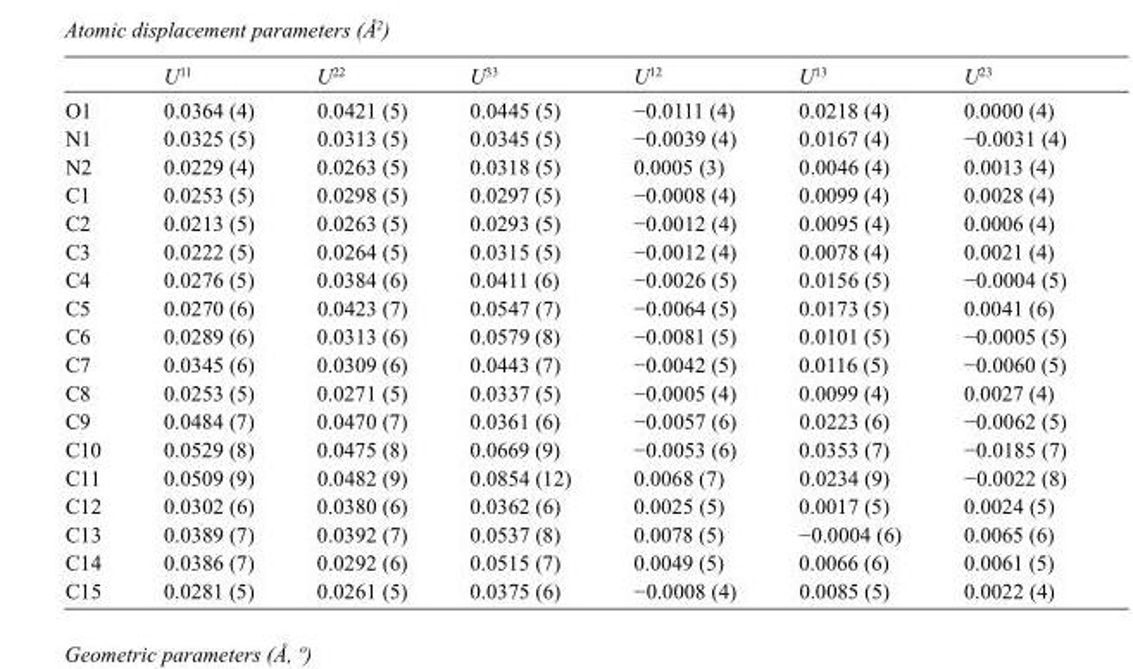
<table><thead><tr><td></td><td>U<sup>11</sup></td><td>U<sup>22</sup></td><td>U<sup>33</sup></td><td>U<sup>12</sup></td><td>U<sup>13</sup></td><td>U<sup>23</sup></td></tr></thead><tbody><tr><td>O1</td><td>0.0364 (4)</td><td>0.0421 (5)</td><td>0.0445 (5)</td><td>−0.0111 (4)</td><td>0.0218 (4)</td><td>0.0000 (4)</td></tr><tr><td>N1</td><td>0.0325 (5)</td><td>0.0313 (5)</td><td>0.0345 (5)</td><td>−0.0039 (4)</td><td>0.0167 (4)</td><td>−0.0031 (4)</td></tr><tr><td>N2</td><td>0.0229 (4)</td><td>0.0263 (5)</td><td>0.0318 (5)</td><td>0.0005 (3)</td><td>0.0046 (4)</td><td>0.0013 (4)</td></tr><tr><td>C1</td><td>0.0253 (5)</td><td>0.0298 (5)</td><td>0.0297 (5)</td><td>−0.0008 (4)</td><td>0.0099 (4)</td><td>0.0028 (4)</td></tr><tr><td>C2</td><td>0.0213 (5)</td><td>0.0263 (5)</td><td>0.0293 (5)</td><td>−0.0012 (4)</td><td>0.0095 (4)</td><td>0.0006 (4)</td></tr><tr><td>C3</td><td>0.0222 (5)</td><td>0.0264 (5)</td><td>0.0315 (5)</td><td>−0.0012 (4)</td><td>0.0078 (4)</td><td>0.0021 (4)</td></tr><tr><td>C4</td><td>0.0276 (5)</td><td>0.0384 (6)</td><td>0.0411 (6)</td><td>−0.0026 (5)</td><td>0.0156 (5)</td><td>−0.0004 (5)</td></tr><tr><td>C5</td><td>0.0270 (6)</td><td>0.0423 (7)</td><td>0.0547 (7)</td><td>−0.0064 (5)</td><td>0.0173 (5)</td><td>0.0041 (6)</td></tr><tr><td>C6</td><td>0.0289 (6)</td><td>0.0313 (6)</td><td>0.0579 (8)</td><td>−0.0081 (5)</td><td>0.0101 (5)</td><td>−0.0005 (5)</td></tr><tr><td>C7</td><td>0.0345 (6)</td><td>0.0309 (6)</td><td>0.0443 (7)</td><td>−0.0042 (5)</td><td>0.0116 (5)</td><td>−0.0060 (5)</td></tr><tr><td>C8</td><td>0.0253 (5)</td><td>0.0271 (5)</td><td>0.0337 (5)</td><td>−0.0005 (4)</td><td>0.0099 (4)</td><td>0.0027 (4)</td></tr><tr><td>C9</td><td>0.0484 (7)</td><td>0.0470 (7)</td><td>0.0361 (6)</td><td>−0.0057 (6)</td><td>0.0223 (6)</td><td>−0.0062 (5)</td></tr><tr><td>C10</td><td>0.0529 (8)</td><td>0.0475 (8)</td><td>0.0669 (9)</td><td>−0.0053 (6)</td><td>0.0353 (7)</td><td>−0.0185 (7)</td></tr><tr><td>C11</td><td>0.0509 (9)</td><td>0.0482 (9)</td><td>0.0854 (12)</td><td>0.0068 (7)</td><td>0.0234 (9)</td><td>−0.0022 (8)</td></tr><tr><td>C12</td><td>0.0302 (6)</td><td>0.0380 (6)</td><td>0.0362 (6)</td><td>0.0025 (5)</td><td>0.0017 (5)</td><td>0.0024 (5)</td></tr><tr><td>C13</td><td>0.0389 (7)</td><td>0.0392 (7)</td><td>0.0537 (8)</td><td>0.0078 (5)</td><td>−0.0004 (6)</td><td>0.0065 (6)</td></tr><tr><td>C14</td><td>0.0386 (7)</td><td>0.0292 (6)</td><td>0.0515 (7)</td><td>0.0049 (5)</td><td>0.0066 (6)</td><td>0.0061 (5)</td></tr><tr><td>C15</td><td>0.0281 (5)</td><td>0.0261 (5)</td><td>0.0375 (6)</td><td>−0.0008 (4)</td><td>0.0085 (5)</td><td>0.0022 (4)</td></tr></tbody></table>